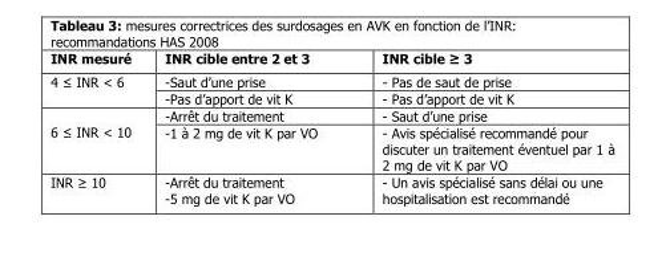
<table><thead><tr><td>INR mesuré</td><td>INR cible entre 2 et 3</td><td>INR cible ≥ 3</td></tr></thead><tbody><tr><td rowspan="2">4 ≤ INR &lt; 6</td><td>-Saut d’une prise</td><td>- Pas de saut de prise</td></tr><tr><td>-Pas d’apport de vit K</td><td>- Pas d’apport de vit K</td></tr><tr><td rowspan="2">6 ≤ INR &lt; 10</td><td>-Arrêt du traitement</td><td>- Saut d’une prise</td></tr><tr><td>-1 à 2 mg de vit K par VO</td><td>- Avis spécialisé recommandé pour discuter un traitement éventuel par 1 à 2 mg de vit K par VO</td></tr><tr><td>INR ≥ 10</td><td>-Arrêt du traitement -5 mg de vit K par VO</td><td>- Un avis spécialisé sans délai ou une hospitalisation est recommandé</td></tr></tbody></table>